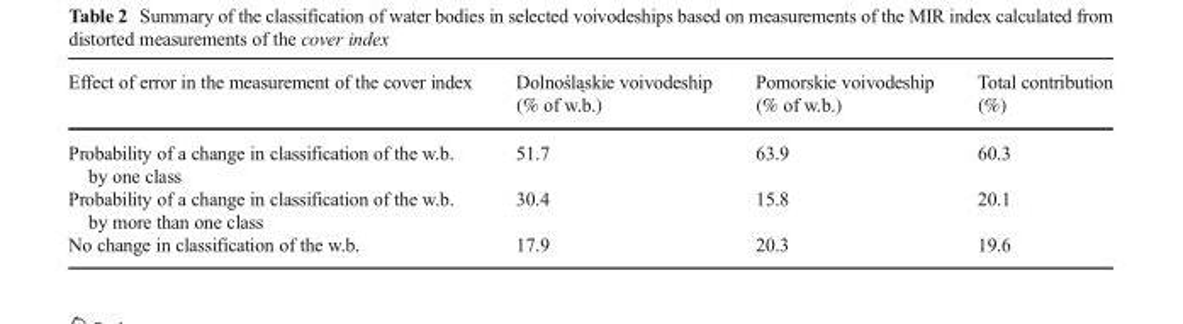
<table><thead><tr><td>Effect of error in the measurement of the cover index</td><td>Dolnośląskie voivodeship (% of w.b.)</td><td>Pomorskie voivodeship (% of w.b.)</td><td>Total contribution (%)</td></tr></thead><tbody><tr><td>Probability of a change in classification of the w.b. by one class</td><td>51.7</td><td>63.9</td><td>60.3</td></tr><tr><td>Probability of a change in classification of the w.b. by more than one class</td><td>30.4</td><td>15.8</td><td>20.1</td></tr><tr><td>No change in classification of the w.b.</td><td>17.9</td><td>20.3</td><td>19.6</td></tr></tbody></table>